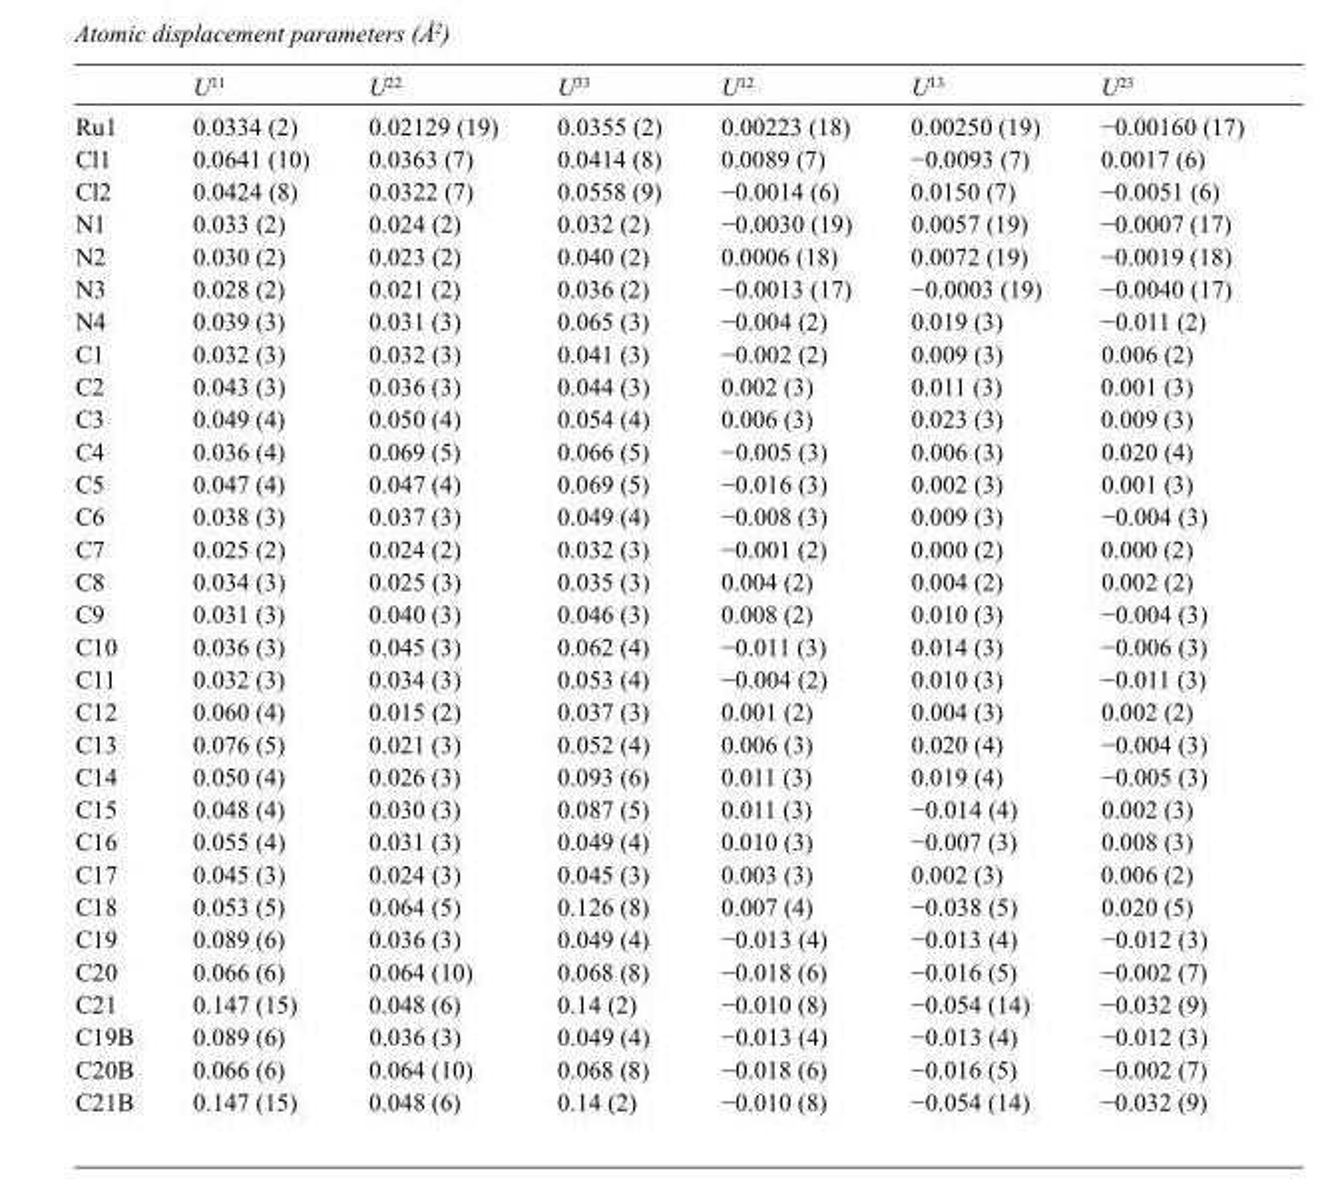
<table><thead><tr><td></td><td>U<sup>11</sup></td><td>U<sup>22</sup></td><td>U<sup>33</sup></td><td>U<sup>12</sup></td><td>U<sup>13</sup></td><td>U<sup>23</sup></td></tr></thead><tbody><tr><td>Ru1</td><td>0.0334 (2)</td><td>0.02129 (19)</td><td>0.0355 (2)</td><td>0.00223 (18)</td><td>0.00250 (19)</td><td>−0.00160 (17)</td></tr><tr><td>Cl1</td><td>0.0641 (10)</td><td>0.0363 (7)</td><td>0.0414 (8)</td><td>0.0089 (7)</td><td>−0.0093 (7)</td><td>0.0017 (6)</td></tr><tr><td>Cl2</td><td>0.0424 (8)</td><td>0.0322 (7)</td><td>0.0558 (9)</td><td>−0.0014 (6)</td><td>0.0150 (7)</td><td>−0.0051 (6)</td></tr><tr><td>N1</td><td>0.033 (2)</td><td>0.024 (2)</td><td>0.032 (2)</td><td>−0.0030 (19)</td><td>0.0057 (19)</td><td>−0.0007 (17)</td></tr><tr><td>N2</td><td>0.030 (2)</td><td>0.023 (2)</td><td>0.040 (2)</td><td>0.0006 (18)</td><td>0.0072 (19)</td><td>−0.0019 (18)</td></tr><tr><td>N3</td><td>0.028 (2)</td><td>0.021 (2)</td><td>0.036 (2)</td><td>−0.0013 (17)</td><td>−0.0003 (19)</td><td>−0.0040 (17)</td></tr><tr><td>N4</td><td>0.039 (3)</td><td>0.031 (3)</td><td>0.065 (3)</td><td>−0.004 (2)</td><td>0.019 (3)</td><td>−0.011 (2)</td></tr><tr><td>C1</td><td>0.032 (3)</td><td>0.032 (3)</td><td>0.041 (3)</td><td>−0.002 (2)</td><td>0.009 (3)</td><td>0.006 (2)</td></tr><tr><td>C2</td><td>0.043 (3)</td><td>0.036 (3)</td><td>0.044 (3)</td><td>0.002 (3)</td><td>0.011 (3)</td><td>0.001 (3)</td></tr><tr><td>C3</td><td>0.049 (4)</td><td>0.050 (4)</td><td>0.054 (4)</td><td>0.006 (3)</td><td>0.023 (3)</td><td>0.009 (3)</td></tr><tr><td>C4</td><td>0.036 (4)</td><td>0.069 (5)</td><td>0.066 (5)</td><td>−0.005 (3)</td><td>0.006 (3)</td><td>0.020 (4)</td></tr><tr><td>C5</td><td>0.047 (4)</td><td>0.047 (4)</td><td>0.069 (5)</td><td>−0.016 (3)</td><td>0.002 (3)</td><td>0.001 (3)</td></tr><tr><td>C6</td><td>0.038 (3)</td><td>0.037 (3)</td><td>0.049 (4)</td><td>−0.008 (3)</td><td>0.009 (3)</td><td>−0.004 (3)</td></tr><tr><td>C7</td><td>0.025 (2)</td><td>0.024 (2)</td><td>0.032 (3)</td><td>−0.001 (2)</td><td>0.000 (2)</td><td>0.000 (2)</td></tr><tr><td>C8</td><td>0.034 (3)</td><td>0.025 (3)</td><td>0.035 (3)</td><td>0.004 (2)</td><td>0.004 (2)</td><td>0.002 (2)</td></tr><tr><td>C9</td><td>0.031 (3)</td><td>0.040 (3)</td><td>0.046 (3)</td><td>0.008 (2)</td><td>0.010 (3)</td><td>−0.004 (3)</td></tr><tr><td>C10</td><td>0.036 (3)</td><td>0.045 (3)</td><td>0.062 (4)</td><td>−0.011 (3)</td><td>0.014 (3)</td><td>−0.006 (3)</td></tr><tr><td>C11</td><td>0.032 (3)</td><td>0.034 (3)</td><td>0.053 (4)</td><td>−0.004 (2)</td><td>0.010 (3)</td><td>−0.011 (3)</td></tr><tr><td>C12</td><td>0.060 (4)</td><td>0.015 (2)</td><td>0.037 (3)</td><td>0.001 (2)</td><td>0.004 (3)</td><td>0.002 (2)</td></tr><tr><td>C13</td><td>0.076 (5)</td><td>0.021 (3)</td><td>0.052 (4)</td><td>0.006 (3)</td><td>0.020 (4)</td><td>−0.004 (3)</td></tr><tr><td>C14</td><td>0.050 (4)</td><td>0.026 (3)</td><td>0.093 (6)</td><td>0.011 (3)</td><td>0.019 (4)</td><td>−0.005 (3)</td></tr><tr><td>C15</td><td>0.048 (4)</td><td>0.030 (3)</td><td>0.087 (5)</td><td>0.011 (3)</td><td>−0.014 (4)</td><td>0.002 (3)</td></tr><tr><td>C16</td><td>0.055 (4)</td><td>0.031 (3)</td><td>0.049 (4)</td><td>0.010 (3)</td><td>−0.007 (3)</td><td>0.008 (3)</td></tr><tr><td>C17</td><td>0.045 (3)</td><td>0.024 (3)</td><td>0.045 (3)</td><td>0.003 (3)</td><td>0.002 (3)</td><td>0.006 (2)</td></tr><tr><td>C18</td><td>0.053 (5)</td><td>0.064 (5)</td><td>0.126 (8)</td><td>0.007 (4)</td><td>−0.038 (5)</td><td>0.020 (5)</td></tr><tr><td>C19</td><td>0.089 (6)</td><td>0.036 (3)</td><td>0.049 (4)</td><td>−0.013 (4)</td><td>−0.013 (4)</td><td>−0.012 (3)</td></tr><tr><td>C20</td><td>0.066 (6)</td><td>0.064 (10)</td><td>0.068 (8)</td><td>−0.018 (6)</td><td>−0.016 (5)</td><td>−0.002 (7)</td></tr><tr><td>C21</td><td>0.147 (15)</td><td>0.048 (6)</td><td>0.14 (2)</td><td>−0.010 (8)</td><td>−0.054 (14)</td><td>−0.032 (9)</td></tr><tr><td>C19B</td><td>0.089 (6)</td><td>0.036 (3)</td><td>0.049 (4)</td><td>−0.013 (4)</td><td>−0.013 (4)</td><td>−0.012 (3)</td></tr><tr><td>C20B</td><td>0.066 (6)</td><td>0.064 (10)</td><td>0.068 (8)</td><td>−0.018 (6)</td><td>−0.016 (5)</td><td>−0.002 (7)</td></tr><tr><td>C21B</td><td>0.147 (15)</td><td>0.048 (6)</td><td>0.14 (2)</td><td>−0.010 (8)</td><td>−0.054 (14)</td><td>−0.032 (9)</td></tr></tbody></table>